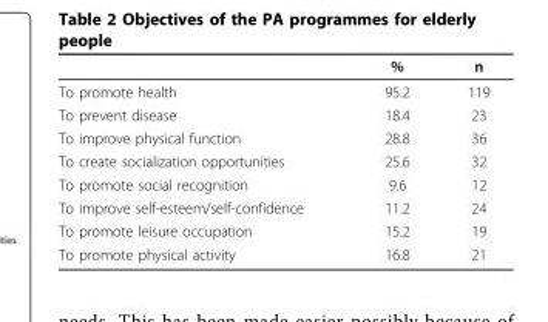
<table><thead><tr><td></td><td>%</td><td>n</td></tr></thead><tbody><tr><td>To promote health</td><td>95.2</td><td>119</td></tr><tr><td>To prevent disease</td><td>18.4</td><td>23</td></tr><tr><td>To improve physical function</td><td>28.8</td><td>36</td></tr><tr><td>To create socialization opportunities</td><td>25.6</td><td>32</td></tr><tr><td>To promote social recognition</td><td>9.6</td><td>12</td></tr><tr><td>To improve self-esteem/self-confidence</td><td>11.2</td><td>24</td></tr><tr><td>To promote leisure occupation</td><td>15.2</td><td>19</td></tr><tr><td>To promote physical activity</td><td>16.8</td><td>21</td></tr></tbody></table>